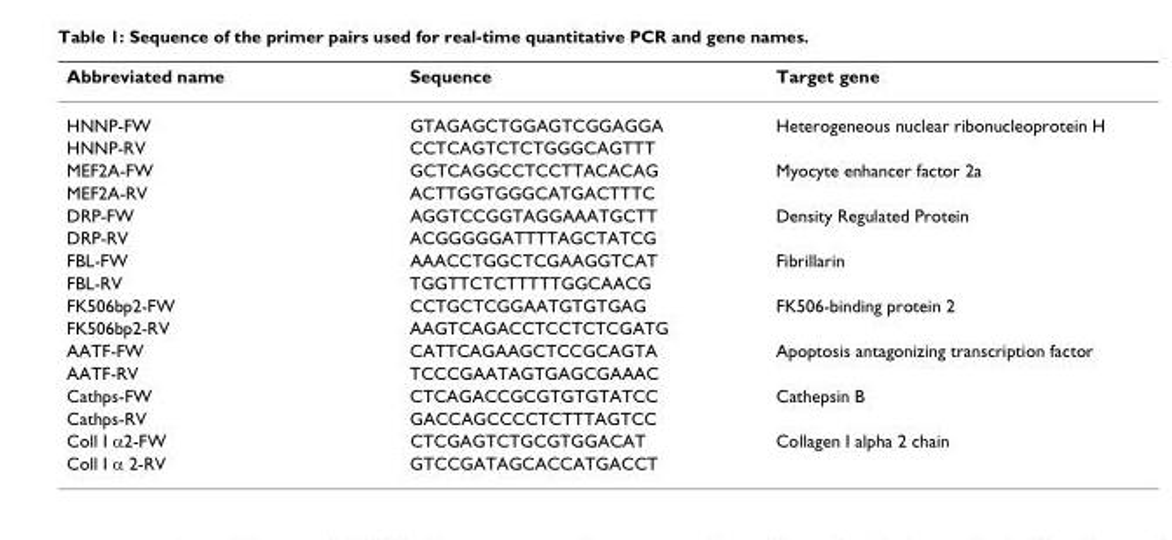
<table><thead><tr><td>Abbreviated name</td><td>Sequence</td><td>Target gene</td></tr></thead><tbody><tr><td>HNNP-FW</td><td>GTAGAGCTGGAGTCGGAGGA</td><td>Heterogeneous nuclear ribonucleoprotein H</td></tr><tr><td>HNNP-RV</td><td>CCTCAGTCTCTGGGCAGTTT</td><td></td></tr><tr><td>MEF2A-FW</td><td>GCTCAGGCCTCCTTACACAG</td><td>Myocyte enhancer factor 2a</td></tr><tr><td>MEF2A-RV</td><td>ACTTGGTGGGCATGACTTTC</td><td></td></tr><tr><td>DRP-FW</td><td>AGGTCCGGTAGGAAATGCTT</td><td>Density Regulated Protein</td></tr><tr><td>DRP-RV</td><td>ACGGGGGATTTTAGCTATCG</td><td></td></tr><tr><td>FBL-FW</td><td>AAACCTGGCTCGAAGGTCAT</td><td>Fibrillarin</td></tr><tr><td>FBL-RV</td><td>TGGTTCTCTTTTTGGCAACG</td><td></td></tr><tr><td>FK506bp2-FW</td><td>CCTGCTCGGAATGTGTGAG</td><td>FK506-binding protein 2</td></tr><tr><td>FK506bp2-RV</td><td>AAGTCAGACCTCCTCTCGATG</td><td></td></tr><tr><td>AATF-FW</td><td>CATTCAGAAGCTCCGCAGTA</td><td>Apoptosis antagonizing transcription factor</td></tr><tr><td>AATF-RV</td><td>TCCCGAATAGTGAGCGAAAC</td><td></td></tr><tr><td>Cathps-FW</td><td>CTCAGACCGCGTGTGTATCC</td><td>Cathepsin B</td></tr><tr><td>Cathps-RV</td><td>GACCAGCCCCTCTTTAGTCC</td><td></td></tr><tr><td>Coll I α2-FW</td><td>CTCGAGTCTGCGTGGACAT</td><td>Collagen I alpha 2 chain</td></tr><tr><td>Coll I α 2-RV</td><td>GTCCGATAGCACCATGACCT</td><td></td></tr></tbody></table>